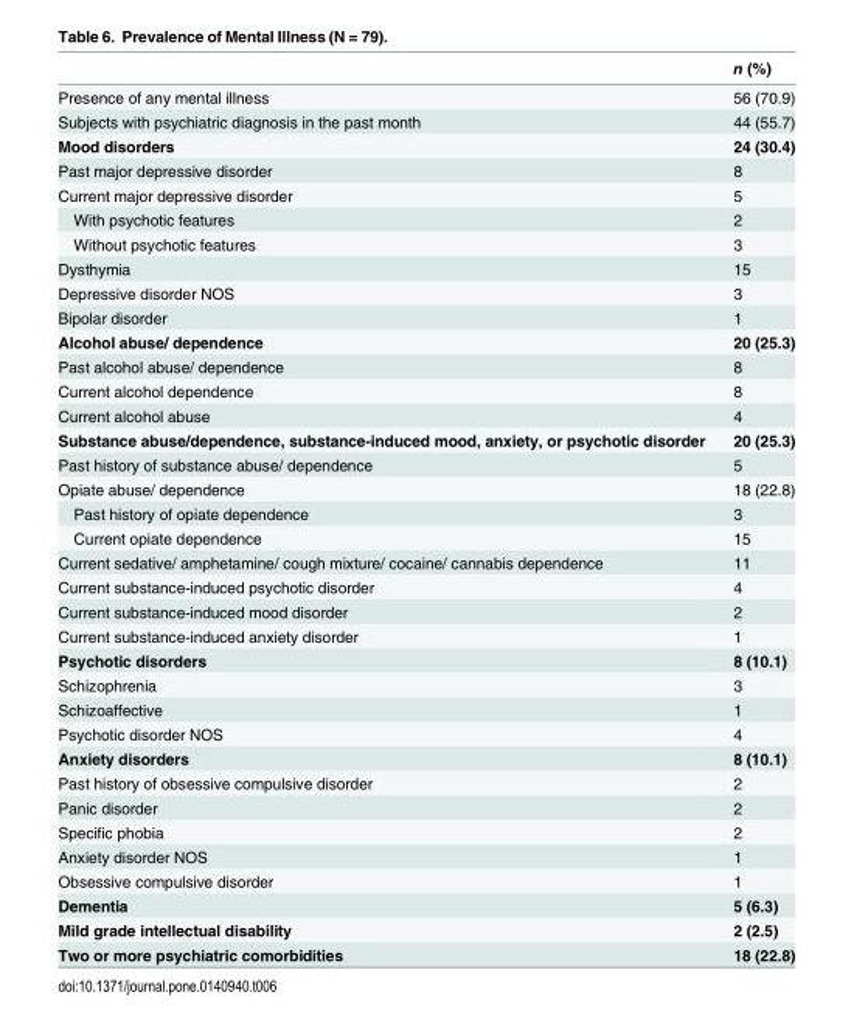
<table><thead><tr><td></td><td>n (%)</td></tr></thead><tbody><tr><td>Presence of any mental illness</td><td>56 (70.9)</td></tr><tr><td>Subjects with psychiatric diagnosis in the past month</td><td>44 (55.7)</td></tr><tr><td>Mood disorders</td><td>24 (30.4)</td></tr><tr><td>Past major depressive disorder</td><td>8</td></tr><tr><td>Current major depressive disorder</td><td>5</td></tr><tr><td>With psychotic features</td><td>2</td></tr><tr><td>Without psychotic features</td><td>3</td></tr><tr><td>Dysthymia</td><td>15</td></tr><tr><td>Depressive disorder NOS</td><td>3</td></tr><tr><td>Bipolar disorder</td><td>1</td></tr><tr><td>Alcohol abuse/ dependence</td><td>20 (25.3)</td></tr><tr><td>Past alcohol abuse/ dependence</td><td>8</td></tr><tr><td>Current alcohol dependence</td><td>8</td></tr><tr><td>Current alcohol abuse</td><td>4</td></tr><tr><td>Substance abuse/dependence, substance-induced mood, anxiety, or psychotic disorder</td><td>20 (25.3)</td></tr><tr><td>Past history of substance abuse/ dependence</td><td>5</td></tr><tr><td>Opiate abuse/ dependence</td><td>18 (22.8)</td></tr><tr><td>Past history of opiate dependence</td><td>3</td></tr><tr><td>Current opiate dependence</td><td>15</td></tr><tr><td>Current sedative/ amphetamine/ cough mixture/ cocaine/ cannabis dependence</td><td>11</td></tr><tr><td>Current substance-induced psychotic disorder</td><td>4</td></tr><tr><td>Current substance-induced mood disorder</td><td>2</td></tr><tr><td>Current substance-induced anxiety disorder</td><td>1</td></tr><tr><td>Psychotic disorders</td><td>8 (10.1)</td></tr><tr><td>Schizophrenia</td><td>3</td></tr><tr><td>Schizoaffective</td><td>1</td></tr><tr><td>Psychotic disorder NOS</td><td>4</td></tr><tr><td>Anxiety disorders</td><td>8 (10.1)</td></tr><tr><td>Past history of obsessive compulsive disorder</td><td>2</td></tr><tr><td>Panic disorder</td><td>2</td></tr><tr><td>Specific phobia</td><td>2</td></tr><tr><td>Anxiety disorder NOS</td><td>1</td></tr><tr><td>Obsessive compulsive disorder</td><td>1</td></tr><tr><td>Dementia</td><td>5 (6.3)</td></tr><tr><td>Mild grade intellectual disability</td><td>2 (2.5)</td></tr><tr><td>Two or more psychiatric comorbidities</td><td>18 (22.8)</td></tr></tbody></table>